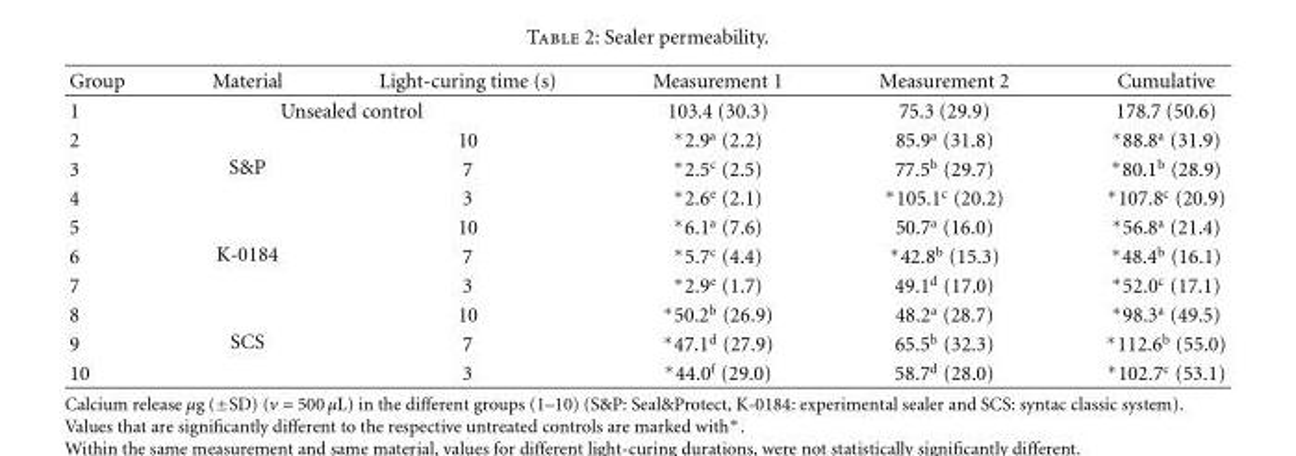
<table><thead><tr><td>Group</td><td>Material</td><td>Light-curing time (s)</td><td>Measurement 1</td><td>Measurement 2</td><td>Cumulative</td></tr></thead><tbody><tr><td>1</td><td colspan="2">Unsealed control</td><td>103.4 (30.3)</td><td>75.3 (29.9)</td><td>178.7 (50.6)</td></tr><tr><td>2</td><td rowspan="3">S&amp;P</td><td>10</td><td>∗2.9a (2.2)</td><td>85.9<sup>a</sup> (31.8)</td><td>∗88.8a (31.9)</td></tr><tr><td>3</td><td>7</td><td>∗2.5c (2.5)</td><td>77.5<sup>b</sup> (29.7)</td><td>∗80.1b (28.9)</td></tr><tr><td>4</td><td>3</td><td>∗2.6e (2.1)</td><td>∗105.1c (20.2)</td><td>∗107.8c (20.9)</td></tr><tr><td>5</td><td rowspan="3">K-0184</td><td>10</td><td>∗6.1a (7.6)</td><td>50.7<sup>a</sup> (16.0)</td><td>∗56.8a (21.4)</td></tr><tr><td>6</td><td>7</td><td>∗5.7c (4.4)</td><td>∗42.8b (15.3)</td><td>∗48.4b (16.1)</td></tr><tr><td>7</td><td>3</td><td>∗2.9e (1.7)</td><td>49.1<sup>d</sup> (17.0)</td><td>∗52.0c (17.1)</td></tr><tr><td>8</td><td rowspan="3">SCS</td><td>10</td><td>∗50.2b (26.9)</td><td>48.2<sup>a</sup> (28.7)</td><td>∗98.3a (49.5)</td></tr><tr><td>9</td><td>7</td><td>∗47.1d (27.9)</td><td>65.5<sup>b</sup> (32.3)</td><td>∗112.6b (55.0)</td></tr><tr><td>10</td><td>3</td><td>∗44.0f (29.0)</td><td>58.7<sup>d</sup> (28.0)</td><td>∗102.7c (53.1)</td></tr></tbody></table>